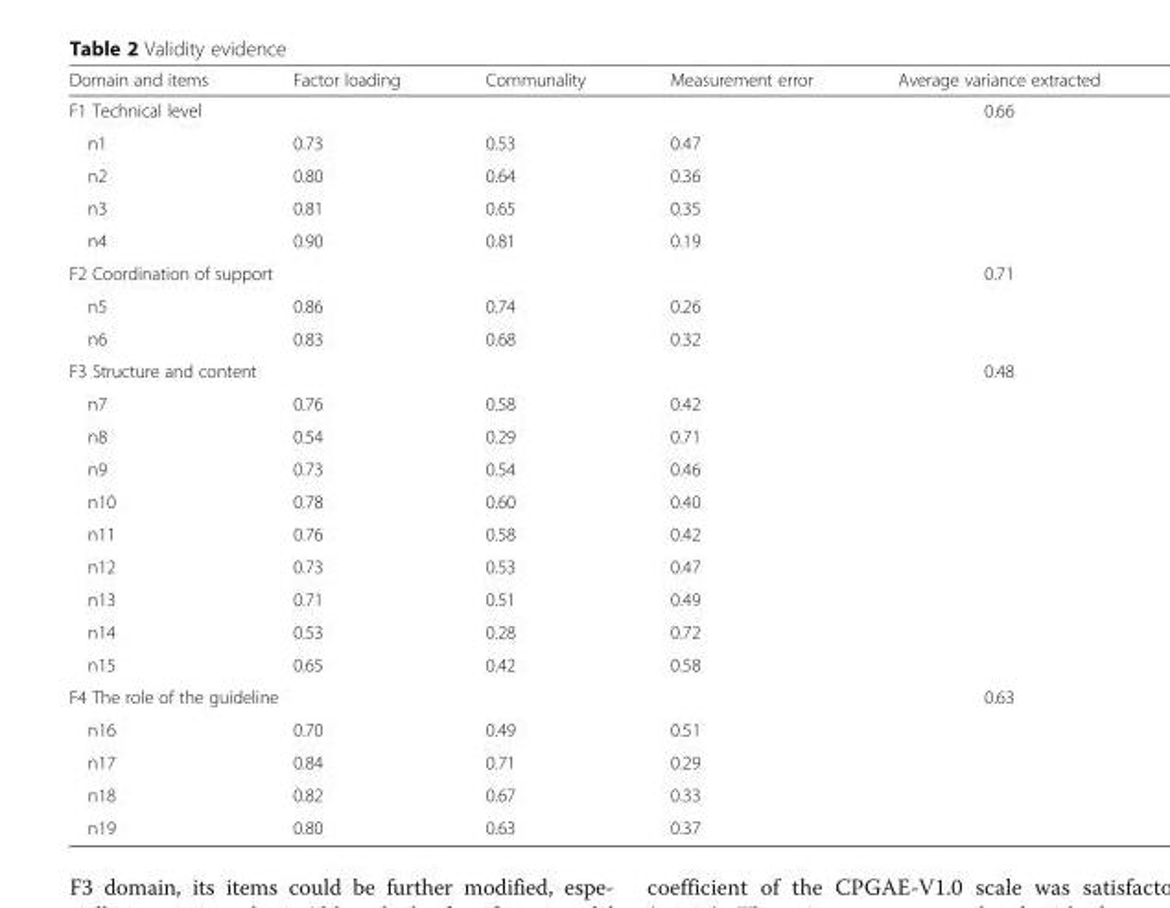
<table><thead><tr><td>Domain and items</td><td>Factor loading</td><td>Communality</td><td>Measurement error</td><td>Average variance extracted</td></tr></thead><tbody><tr><td colspan="3">F1 Technical level</td><td></td><td>0.66</td></tr><tr><td>n1</td><td>0.73</td><td>0.53</td><td>0.47</td><td></td></tr><tr><td>n2</td><td>0.80</td><td>0.64</td><td>0.36</td><td></td></tr><tr><td>n3</td><td>0.81</td><td>0.65</td><td>0.35</td><td></td></tr><tr><td>n4</td><td>0.90</td><td>0.81</td><td>0.19</td><td></td></tr><tr><td colspan="3">F2 Coordination of support</td><td></td><td>0.71</td></tr><tr><td>n5</td><td>0.86</td><td>0.74</td><td>0.26</td><td></td></tr><tr><td>n6</td><td>0.83</td><td>0.68</td><td>0.32</td><td></td></tr><tr><td colspan="3">F3 Structure and content</td><td></td><td>0.48</td></tr><tr><td>n7</td><td>0.76</td><td>0.58</td><td>0.42</td><td></td></tr><tr><td>n8</td><td>0.54</td><td>0.29</td><td>0.71</td><td></td></tr><tr><td>n9</td><td>0.73</td><td>0.54</td><td>0.46</td><td></td></tr><tr><td>n10</td><td>0.78</td><td>0.60</td><td>0.40</td><td></td></tr><tr><td>n11</td><td>0.76</td><td>0.58</td><td>0.42</td><td></td></tr><tr><td>n12</td><td>0.73</td><td>0.53</td><td>0.47</td><td></td></tr><tr><td>n13</td><td>0.71</td><td>0.51</td><td>0.49</td><td></td></tr><tr><td>n14</td><td>0.53</td><td>0.28</td><td>0.72</td><td></td></tr><tr><td>n15</td><td>0.65</td><td>0.42</td><td>0.58</td><td></td></tr><tr><td colspan="3">F4 The role of the guideline</td><td></td><td>0.63</td></tr><tr><td>n16</td><td>0.70</td><td>0.49</td><td>0.51</td><td></td></tr><tr><td>n17</td><td>0.84</td><td>0.71</td><td>0.29</td><td></td></tr><tr><td>n18</td><td>0.82</td><td>0.67</td><td>0.33</td><td></td></tr><tr><td>n19</td><td>0.80</td><td>0.63</td><td>0.37</td><td></td></tr></tbody></table>